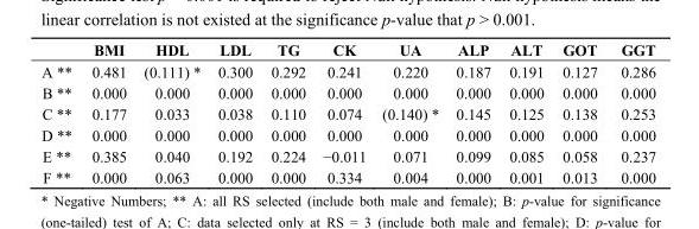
<table><thead><tr><td></td><td>BMI</td><td>HDL</td><td>LDL</td><td>TG</td><td>CK</td><td>UA</td><td>ALP</td><td>ALT</td><td>GOT</td><td>GGT</td></tr></thead><tbody><tr><td>A **</td><td>0.481</td><td>(0.111) *</td><td>0.300</td><td>0.292</td><td>0.241</td><td>0.220</td><td>0.187</td><td>0.191</td><td>0.127</td><td>0.286</td></tr><tr><td>B **</td><td>0.000</td><td>0.000</td><td>0.000</td><td>0.000</td><td>0.000</td><td>0.000</td><td>0.000</td><td>0.000</td><td>0.000</td><td>0.000</td></tr><tr><td>C **</td><td>0.177</td><td>0.033</td><td>0.038</td><td>0.110</td><td>0.074</td><td>(0.140) *</td><td>0.145</td><td>0.125</td><td>0.138</td><td>0.253</td></tr><tr><td>D **</td><td>0.000</td><td>0.000</td><td>0.000</td><td>0.000</td><td>0.000</td><td>0.000</td><td>0.000</td><td>0.000</td><td>0.000</td><td>0.000</td></tr><tr><td>E **</td><td>0.385</td><td>0.040</td><td>0.192</td><td>0.224</td><td>−0.011</td><td>0.071</td><td>0.099</td><td>0.085</td><td>0.058</td><td>0.237</td></tr><tr><td>F **</td><td>0.000</td><td>0.063</td><td>0.000</td><td>0.000</td><td>0.334</td><td>0.004</td><td>0.000</td><td>0.001</td><td>0.013</td><td>0.000</td></tr></tbody></table>